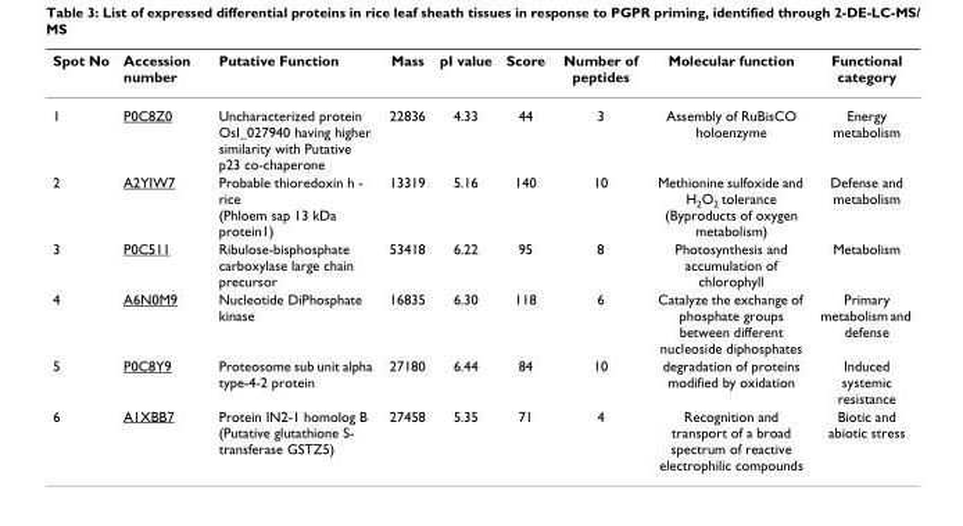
<table><thead><tr><td>Spot No</td><td>Accession number</td><td>Putative Function</td><td>Mass</td><td>pI value</td><td>Score</td><td>Number of peptides</td><td>Molecular function</td><td>Functional category</td></tr></thead><tbody><tr><td>1</td><td>P0C8Z0</td><td>Uncharacterized protein OsI_027940 having higher similarity with Putative p23 co-chaperone</td><td>22836</td><td>4.33</td><td>44</td><td>3</td><td>Assembly of RuBisCO holoenzyme</td><td>Energy metabolism</td></tr><tr><td>2</td><td>A2YIW7</td><td>Probable thioredoxin h - rice (Phloem sap 13 kDa protein1)</td><td>13319</td><td>5.16</td><td>140</td><td>10</td><td>Methionine sulfoxide and H<sub>2</sub>O<sub>2</sub> tolerance (Byproducts of oxygen metabolism)</td><td>Defense and metabolism</td></tr><tr><td>3</td><td>P0C511</td><td>Ribulose-bisphosphate carboxylase large chain precursor</td><td>53418</td><td>6.22</td><td>95</td><td>8</td><td>Photosynthesis and accumulation of chlorophyll</td><td>Metabolism</td></tr><tr><td>4</td><td>A6N0M9</td><td>Nucleotide DiPhosphate kinase</td><td>16835</td><td>6.30</td><td>118</td><td>6</td><td>Catalyze the exchange of phosphate groups between different nucleoside diphosphates</td><td>Primary metabolism and defense</td></tr><tr><td>5</td><td>P0C8Y9</td><td>Proteosome sub unit alpha type-4-2 protein</td><td>27180</td><td>6.44</td><td>84</td><td>10</td><td>degradation of proteins modified by oxidation</td><td>Induced systemic resistance</td></tr><tr><td>6</td><td>A1XBB7</td><td>Protein IN2-1 homolog B (Putative glutathione S- transferase GSTZ5)</td><td>27458</td><td>5.35</td><td>71</td><td>4</td><td>Recognition and transport of a broad spectrum of reactive electrophilic compounds</td><td>Biotic and abiotic stress</td></tr></tbody></table>